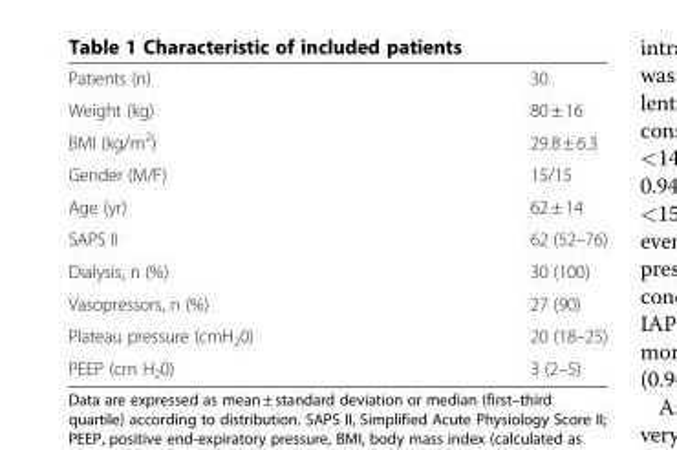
<table><tbody><tr><td>Patients (n)</td><td>30</td></tr><tr><td>Weight (kg)</td><td>80 ± 16</td></tr><tr><td>BMI (kg/m<sup>2</sup>)</td><td>29.8 ± 6.3</td></tr><tr><td>Gender (M/F)</td><td>15/15</td></tr><tr><td>Age (yr)</td><td>62 ± 14</td></tr><tr><td>SAPS II</td><td>62 (52–76)</td></tr><tr><td>Dialysis, n (%)</td><td>30 (100)</td></tr><tr><td>Vasopressors, n (%)</td><td>27 (90)</td></tr><tr><td>Plateau pressure (cmH<sub>2</sub>0)</td><td>20 (18–25)</td></tr><tr><td>PEEP (cm H<sub>2</sub>0)</td><td>3 (2–5)</td></tr></tbody></table>